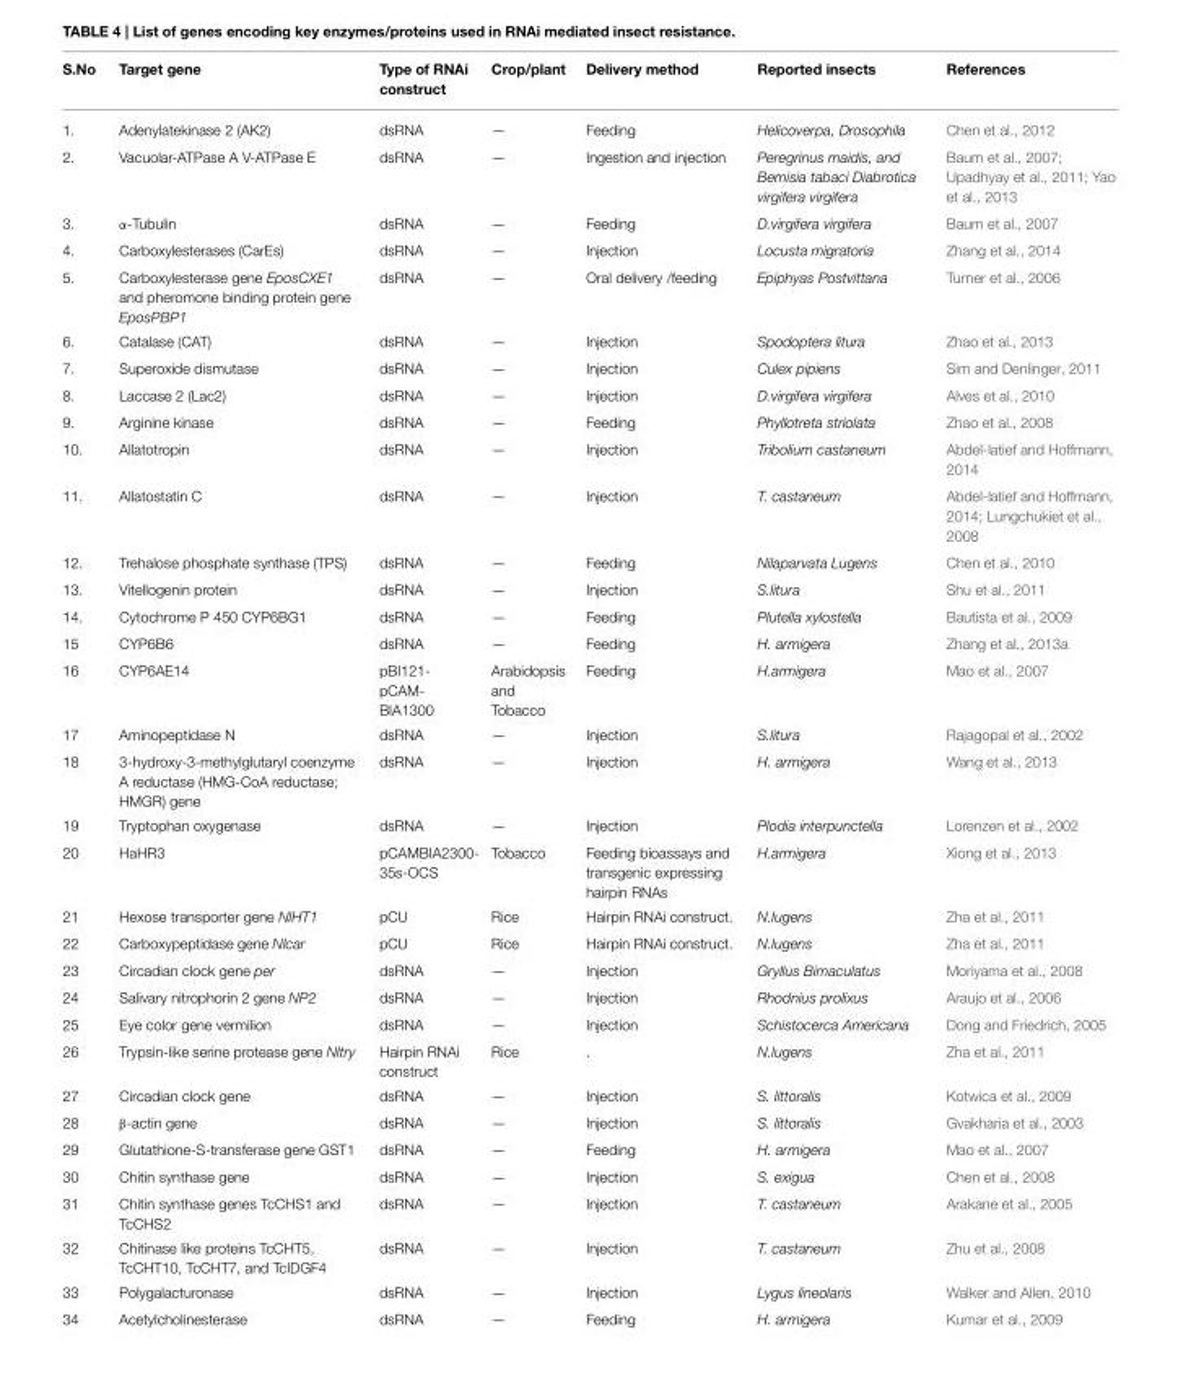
<table><thead><tr><td>S.No</td><td>Target gene</td><td>Type of RNAi construct</td><td>Crop/plant</td><td>Delivery method</td><td>Reported insects</td><td>References</td></tr></thead><tbody><tr><td>1.</td><td>Adenylatekinase 2 (AK2)</td><td>dsRNA</td><td>—</td><td>Feeding</td><td>Helicoverpa, Drosophila</td><td>Chen et al., 2012</td></tr><tr><td>2.</td><td>Vacuolar-ATPase A V-ATPase E</td><td>dsRNA</td><td>—</td><td>Ingestion and injection</td><td>Peregrinus maidis, and Bemisia tabaci Diabrotica virgifera virgifera</td><td>Baum et al., 2007; Upadhyay et al., 2011; Yao et al., 2013</td></tr><tr><td>3.</td><td>α-Tubulin</td><td>dsRNA</td><td>—</td><td>Feeding</td><td>D.virgifera virgifera</td><td>Baum et al., 2007</td></tr><tr><td>4.</td><td>Carboxylesterases (CarEs)</td><td>dsRNA</td><td>—</td><td>Injection</td><td>Locusta migratoria</td><td>Zhang et al., 2014</td></tr><tr><td>5.</td><td>Carboxylesterase gene EposCXE1 and pheromone binding protein gene EposPBP1</td><td>dsRNA</td><td>—</td><td>Oral delivery /feeding</td><td>Epiphyas Postvittana</td><td>Turner et al., 2006</td></tr><tr><td>6.</td><td>Catalase (CAT)</td><td>dsRNA</td><td>—</td><td>Injection</td><td>Spodoptera litura</td><td>Zhao et al., 2013</td></tr><tr><td>7.</td><td>Superoxide dismutase</td><td>dsRNA</td><td>—</td><td>Injection</td><td>Culex pipiens</td><td>Sim and Denlinger, 2011</td></tr><tr><td>8.</td><td>Laccase 2 (Lac2)</td><td>dsRNA</td><td>—</td><td>Injection</td><td>D.virgifera virgifera</td><td>Alves et al., 2010</td></tr><tr><td>9.</td><td>Arginine kinase</td><td>dsRNA</td><td>—</td><td>Feeding</td><td>Phyllotreta striolata</td><td>Zhao et al., 2008</td></tr><tr><td>10.</td><td>Allatotropin</td><td>dsRNA</td><td>—</td><td>Injection</td><td>Tribolium castaneum</td><td>Abdel-latief and Hoffmann, 2014</td></tr><tr><td>11.</td><td>Allatostatin C</td><td>dsRNA</td><td>—</td><td>Injection</td><td>T. castaneum</td><td>Abdel-latief and Hoffmann, 2014; Lungchukiet et al., 2008</td></tr><tr><td>12.</td><td>Trehalose phosphate synthase (TPS)</td><td>dsRNA</td><td>—</td><td>Feeding</td><td>Nilaparvata Lugens</td><td>Chen et al., 2010</td></tr><tr><td>13.</td><td>Vitellogenin protein</td><td>dsRNA</td><td>—</td><td>Injection</td><td>S.litura</td><td>Shu et al., 2011</td></tr><tr><td>14.</td><td>Cytochrome P 450 CYP6BG1</td><td>dsRNA</td><td>—</td><td>Feeding</td><td>Plutella xylostella</td><td>Bautista et al., 2009</td></tr><tr><td>15</td><td>CYP6B6</td><td>dsRNA</td><td>—</td><td>Feeding</td><td>H. armigera</td><td>Zhang et al., 2013a</td></tr><tr><td>16</td><td>CYP6AE14</td><td>pBI121- pCAM- BIA1300</td><td>Arabidopsis and Tobacco</td><td>Feeding</td><td>H.armigera</td><td>Mao et al., 2007</td></tr><tr><td>17</td><td>Aminopeptidase N</td><td>dsRNA</td><td>—</td><td>Injection</td><td>S.litura</td><td>Rajagopal et al., 2002</td></tr><tr><td>18</td><td>3-hydroxy-3-methylglutaryl coenzyme A reductase (HMG-CoA reductase; HMGR) gene</td><td>dsRNA</td><td>—</td><td>Injection</td><td>H. armigera</td><td>Wang et al., 2013</td></tr><tr><td>19</td><td>Tryptophan oxygenase</td><td>dsRNA</td><td>—</td><td>Injection</td><td>Plodia interpunctella</td><td>Lorenzen et al., 2002</td></tr><tr><td>20</td><td>HaHR3</td><td>pCAMBIA2300- 35s-OCS</td><td>Tobacco</td><td>Feeding bioassays and transgenic expressing hairpin RNAs</td><td>H.armigera</td><td>Xiong et al., 2013</td></tr><tr><td>21</td><td>Hexose transporter gene NlHT1</td><td>pCU</td><td>Rice</td><td>Hairpin RNAi construct.</td><td>N.lugens</td><td>Zha et al., 2011</td></tr><tr><td>22</td><td>Carboxypeptidase gene Nlcar</td><td>pCU</td><td>Rice</td><td>Hairpin RNAi construct.</td><td>N.lugens</td><td>Zha et al., 2011</td></tr><tr><td>23</td><td>Circadian clock gene per</td><td>dsRNA</td><td>—</td><td>Injection</td><td>Gryllus Bimaculatus</td><td>Moriyama et al., 2008</td></tr><tr><td>24</td><td>Salivary nitrophorin 2 gene NP2</td><td>dsRNA</td><td>—</td><td>Injection</td><td>Rhodnius prolixus</td><td>Araujo et al., 2006</td></tr><tr><td>25</td><td>Eye color gene vermilion</td><td>dsRNA</td><td>—</td><td>Injection</td><td>Schistocerca Americana</td><td>Dong and Friedrich, 2005</td></tr><tr><td>26</td><td>Trypsin-like serine protease gene Nltry</td><td>Hairpin RNAi construct</td><td>Rice</td><td>.</td><td>N.lugens</td><td>Zha et al., 2011</td></tr><tr><td>27</td><td>Circadian clock gene</td><td>dsRNA</td><td>—</td><td>Injection</td><td>S. littoralis</td><td>Kotwica et al., 2009</td></tr><tr><td>28</td><td>β-actin gene</td><td>dsRNA</td><td>—</td><td>Injection</td><td>S. littoralis</td><td>Gvakharia et al., 2003</td></tr><tr><td>29</td><td>Glutathione-S-transferase gene GST1</td><td>dsRNA</td><td>—</td><td>Feeding</td><td>H. armigera</td><td>Mao et al., 2007</td></tr><tr><td>30</td><td>Chitin synthase gene</td><td>dsRNA</td><td>—</td><td>Injection</td><td>S. exigua</td><td>Chen et al., 2008</td></tr><tr><td>31</td><td>Chitin synthase genes TcCHS1 and TcCHS2</td><td>dsRNA</td><td>—</td><td>Injection</td><td>T. castaneum</td><td>Arakane et al., 2005</td></tr><tr><td>32</td><td>Chitinase like proteins TcCHT5, TcCHT10, TcCHT7, and TcIDGF4</td><td>dsRNA</td><td>—</td><td>Injection</td><td>T. castaneum</td><td>Zhu et al., 2008</td></tr><tr><td>33</td><td>Polygalacturonase</td><td>dsRNA</td><td>—</td><td>Injection</td><td>Lygus lineolaris</td><td>Walker and Allen, 2010</td></tr><tr><td>34</td><td>Acetylcholinesterase</td><td>dsRNA</td><td>—</td><td>Feeding</td><td>H. armigera</td><td>Kumar et al., 2009</td></tr></tbody></table>